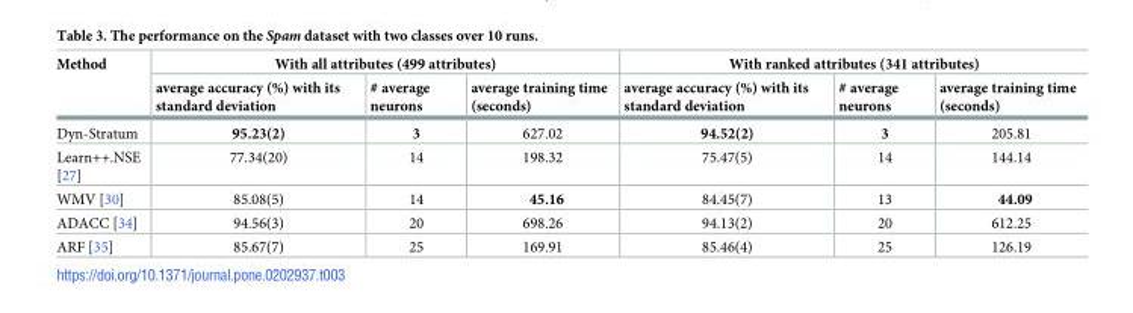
<table><thead><tr><td rowspan="2">Method</td><td colspan="3">With all attributes (499 attributes)</td><td colspan="3">With ranked attributes (341 attributes)</td></tr><tr><td>average accuracy (%) with its standard deviation</td><td># average neurons</td><td>average training time (seconds)</td><td>average accuracy (%) with its standard deviation</td><td># average neurons</td><td>average training time (seconds)</td></tr></thead><tbody><tr><td>Dyn-Stratum</td><td>95.23(2)</td><td>3</td><td>627.02</td><td>94.52(2)</td><td>3</td><td>205.81</td></tr><tr><td>Learn++.NSE [27]</td><td>77.34(20)</td><td>14</td><td>198.32</td><td>75.47(5)</td><td>14</td><td>144.14</td></tr><tr><td>WMV [30]</td><td>85.08(5)</td><td>14</td><td>45.16</td><td>84.45(7)</td><td>13</td><td>44.09</td></tr><tr><td>ADACC [34]</td><td>94.56(3)</td><td>20</td><td>698.26</td><td>94.13(2)</td><td>20</td><td>612.25</td></tr><tr><td>ARF [35]</td><td>85.67(7)</td><td>25</td><td>169.91</td><td>85.46(4)</td><td>25</td><td>126.19</td></tr></tbody></table>